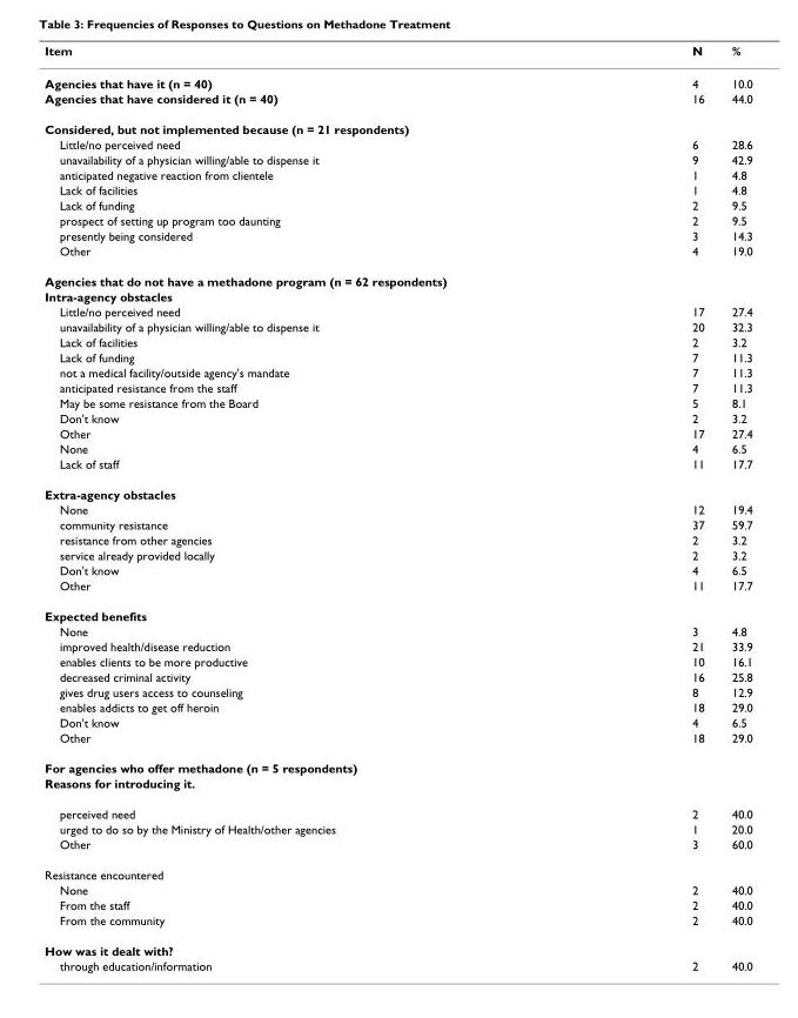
<table><thead><tr><td>Item</td><td>N</td><td>%</td></tr></thead><tbody><tr><td>Agencies that have it (n = 40)</td><td>4</td><td>10.0</td></tr><tr><td>Agencies that have considered it (n = 40)</td><td>16</td><td>44.0</td></tr><tr><td colspan="3">Considered, but not implemented because (n = 21 respondents)</td></tr><tr><td>Little/no perceived need</td><td>6</td><td>28.6</td></tr><tr><td>unavailability of a physician willing/able to dispense it</td><td>9</td><td>42.9</td></tr><tr><td>anticipated negative reaction from clientele</td><td>1</td><td>4.8</td></tr><tr><td>Lack of facilities</td><td>1</td><td>4.8</td></tr><tr><td>Lack of funding</td><td>2</td><td>9.5</td></tr><tr><td>prospect of setting up program too daunting</td><td>2</td><td>9.5</td></tr><tr><td>presently being considered</td><td>3</td><td>14.3</td></tr><tr><td>Other</td><td>4</td><td>19.0</td></tr><tr><td colspan="3">Agencies that do not have a methadone program (n = 62 respondents)</td></tr><tr><td colspan="3">Intra-agency obstacles</td></tr><tr><td>Little/no perceived need</td><td>17</td><td>27.4</td></tr><tr><td>unavailability of a physician willing/able to dispense it</td><td>20</td><td>32.3</td></tr><tr><td>Lack of facilities</td><td>2</td><td>3.2</td></tr><tr><td>Lack of funding</td><td>7</td><td>11.3</td></tr><tr><td>not a medical facility/outside agency&#x27;s mandate</td><td>7</td><td>11.3</td></tr><tr><td>anticipated resistance from the staff</td><td>7</td><td>11.3</td></tr><tr><td>May be some resistance from the Board</td><td>5</td><td>8.1</td></tr><tr><td>Don&#x27;t know</td><td>2</td><td>3.2</td></tr><tr><td>Other</td><td>17</td><td>27.4</td></tr><tr><td>None</td><td>4</td><td>6.5</td></tr><tr><td>Lack of staff</td><td>11</td><td>17.7</td></tr><tr><td colspan="3">Extra-agency obstacles</td></tr><tr><td>None</td><td>12</td><td>19.4</td></tr><tr><td>community resistance</td><td>37</td><td>59.7</td></tr><tr><td>resistance from other agencies</td><td>2</td><td>3.2</td></tr><tr><td>service already provided locally</td><td>2</td><td>3.2</td></tr><tr><td>Don&#x27;t know</td><td>4</td><td>6.5</td></tr><tr><td>Other</td><td>11</td><td>17.7</td></tr><tr><td colspan="3">Expected benefits</td></tr><tr><td>None</td><td>3</td><td>4.8</td></tr><tr><td>improved health/disease reduction</td><td>21</td><td>33.9</td></tr><tr><td>enables clients to be more productive</td><td>10</td><td>16.1</td></tr><tr><td>decreased criminal activity</td><td>16</td><td>25.8</td></tr><tr><td>gives drug users access to counseling</td><td>8</td><td>12.9</td></tr><tr><td>enables addicts to get off heroin</td><td>18</td><td>29.0</td></tr><tr><td>Don&#x27;t know</td><td>4</td><td>6.5</td></tr><tr><td>Other</td><td>18</td><td>29.0</td></tr><tr><td colspan="3">For agencies who offer methadone (n = 5 respondents)</td></tr><tr><td colspan="3">Reasons for introducing it.</td></tr><tr><td>perceived need</td><td>2</td><td>40.0</td></tr><tr><td>urged to do so by the Ministry of Health/other agencies</td><td>1</td><td>20.0</td></tr><tr><td>Other</td><td>3</td><td>60.0</td></tr><tr><td colspan="3">Resistance encountered</td></tr><tr><td>None</td><td>2</td><td>40.0</td></tr><tr><td>From the staff</td><td>2</td><td>40.0</td></tr><tr><td>From the community</td><td>2</td><td>40.0</td></tr><tr><td colspan="3">How was it dealt with?</td></tr><tr><td>through education/information</td><td>2</td><td>40.0</td></tr></tbody></table>